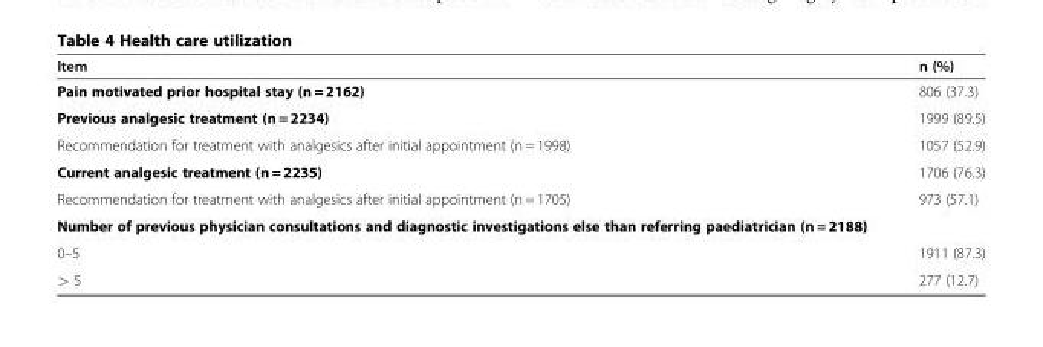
<table><thead><tr><td>Item</td><td>n (%)</td></tr></thead><tbody><tr><td>Pain motivated prior hospital stay (n = 2162)</td><td>806 (37.3)</td></tr><tr><td>Previous analgesic treatment (n = 2234)</td><td>1999 (89.5)</td></tr><tr><td>Recommendation for treatment with analgesics after initial appointment (n = 1998)</td><td>1057 (52.9)</td></tr><tr><td>Current analgesic treatment (n = 2235)</td><td>1706 (76.3)</td></tr><tr><td>Recommendation for treatment with analgesics after initial appointment (n = 1705)</td><td>973 (57.1)</td></tr><tr><td colspan="2">Number of previous physician consultations and diagnostic investigations else than referring paediatrician (n = 2188)</td></tr><tr><td>0–5</td><td>1911 (87.3)</td></tr><tr><td>&gt; 5</td><td>277 (12.7)</td></tr></tbody></table>